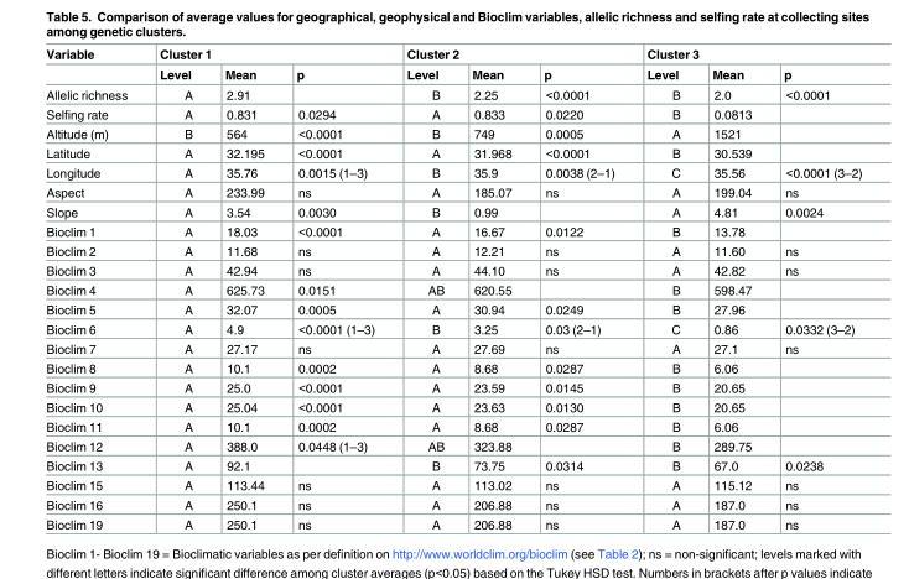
<table><thead><tr><td rowspan="2">Variable</td><td colspan="3">Cluster 1</td><td colspan="3">Cluster 2</td><td colspan="3">Cluster 3</td></tr><tr><td>Level</td><td>Mean</td><td>p</td><td>Level</td><td>Mean</td><td>p</td><td>Level</td><td>Mean</td><td>p</td></tr></thead><tbody><tr><td>Allelic richness</td><td>A</td><td>2.91</td><td></td><td>B</td><td>2.25</td><td>&lt;0.0001</td><td>B</td><td>2.0</td><td>&lt;0.0001</td></tr><tr><td>Selfing rate</td><td>A</td><td>0.831</td><td>0.0294</td><td>A</td><td>0.833</td><td>0.0220</td><td>B</td><td>0.0813</td><td></td></tr><tr><td>Altitude (m)</td><td>B</td><td>564</td><td>&lt;0.0001</td><td>B</td><td>749</td><td>0.0005</td><td>A</td><td>1521</td><td></td></tr><tr><td>Latitude</td><td>A</td><td>32.195</td><td>&lt;0.0001</td><td>A</td><td>31.968</td><td>&lt;0.0001</td><td>B</td><td>30.539</td><td></td></tr><tr><td>Longitude</td><td>A</td><td>35.76</td><td>0.0015 (1–3)</td><td>B</td><td>35.9</td><td>0.0038 (2–1)</td><td>C</td><td>35.56</td><td>&lt;0.0001 (3–2)</td></tr><tr><td>Aspect</td><td>A</td><td>233.99</td><td>ns</td><td>A</td><td>185.07</td><td>ns</td><td>A</td><td>199.04</td><td>ns</td></tr><tr><td>Slope</td><td>A</td><td>3.54</td><td>0.0030</td><td>B</td><td>0.99</td><td></td><td>A</td><td>4.81</td><td>0.0024</td></tr><tr><td>Bioclim 1</td><td>A</td><td>18.03</td><td>&lt;0.0001</td><td>A</td><td>16.67</td><td>0.0122</td><td>B</td><td>13.78</td><td></td></tr><tr><td>Bioclim 2</td><td>A</td><td>11.68</td><td>ns</td><td>A</td><td>12.21</td><td>ns</td><td>A</td><td>11.60</td><td>ns</td></tr><tr><td>Bioclim 3</td><td>A</td><td>42.94</td><td>ns</td><td>A</td><td>44.10</td><td>ns</td><td>A</td><td>42.82</td><td>ns</td></tr><tr><td>Bioclim 4</td><td>A</td><td>625.73</td><td>0.0151</td><td>AB</td><td>620.55</td><td></td><td>B</td><td>598.47</td><td></td></tr><tr><td>Bioclim 5</td><td>A</td><td>32.07</td><td>0.0005</td><td>A</td><td>30.94</td><td>0.0249</td><td>B</td><td>27.96</td><td></td></tr><tr><td>Bioclim 6</td><td>A</td><td>4.9</td><td>&lt;0.0001 (1–3)</td><td>B</td><td>3.25</td><td>0.03 (2–1)</td><td>C</td><td>0.86</td><td>0.0332 (3–2)</td></tr><tr><td>Bioclim 7</td><td>A</td><td>27.17</td><td>ns</td><td>A</td><td>27.69</td><td>ns</td><td>A</td><td>27.1</td><td>ns</td></tr><tr><td>Bioclim 8</td><td>A</td><td>10.1</td><td>0.0002</td><td>A</td><td>8.68</td><td>0.0287</td><td>B</td><td>6.06</td><td></td></tr><tr><td>Bioclim 9</td><td>A</td><td>25.0</td><td>&lt;0.0001</td><td>A</td><td>23.59</td><td>0.0145</td><td>B</td><td>20.65</td><td></td></tr><tr><td>Bioclim 10</td><td>A</td><td>25.04</td><td>&lt;0.0001</td><td>A</td><td>23.63</td><td>0.0130</td><td>B</td><td>20.65</td><td></td></tr><tr><td>Bioclim 11</td><td>A</td><td>10.1</td><td>0.0002</td><td>A</td><td>8.68</td><td>0.0287</td><td>B</td><td>6.06</td><td></td></tr><tr><td>Bioclim 12</td><td>A</td><td>388.0</td><td>0.0448 (1–3)</td><td>AB</td><td>323.88</td><td></td><td>B</td><td>289.75</td><td></td></tr><tr><td>Bioclim 13</td><td>A</td><td>92.1</td><td></td><td>B</td><td>73.75</td><td>0.0314</td><td>B</td><td>67.0</td><td>0.0238</td></tr><tr><td>Bioclim 15</td><td>A</td><td>113.44</td><td>ns</td><td>A</td><td>113.02</td><td>ns</td><td>A</td><td>115.12</td><td>ns</td></tr><tr><td>Bioclim 16</td><td>A</td><td>250.1</td><td>ns</td><td>A</td><td>206.88</td><td>ns</td><td>A</td><td>187.0</td><td>ns</td></tr><tr><td>Bioclim 19</td><td>A</td><td>250.1</td><td>ns</td><td>A</td><td>206.88</td><td>ns</td><td>A</td><td>187.0</td><td>ns</td></tr></tbody></table>